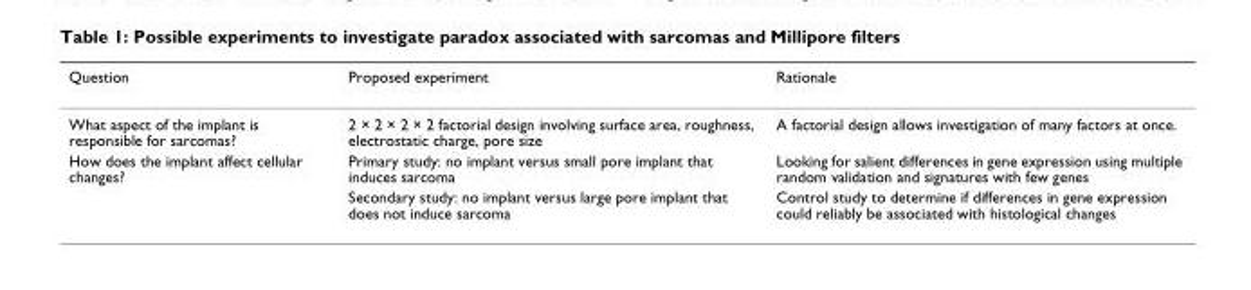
<table><thead><tr><td>Question</td><td>Proposed experiment</td><td>Rationale</td></tr></thead><tbody><tr><td>What aspect of the implant is responsible for sarcomas?</td><td>2 × 2 × 2 × 2 factorial design involving surface area, roughness, electrostatic charge, pore size</td><td>A factorial design allows investigation of many factors at once.</td></tr><tr><td rowspan="2">How does the implant affect cellular changes?</td><td>Primary study: no implant versus small pore implant that induces sarcoma</td><td>Looking for salient differences in gene expression using multiple random validation and signatures with few genes</td></tr><tr><td>Secondary study: no implant versus large pore implant that does not induce sarcoma</td><td>Control study to determine if differences in gene expression could reliably be associated with histological changes</td></tr></tbody></table>